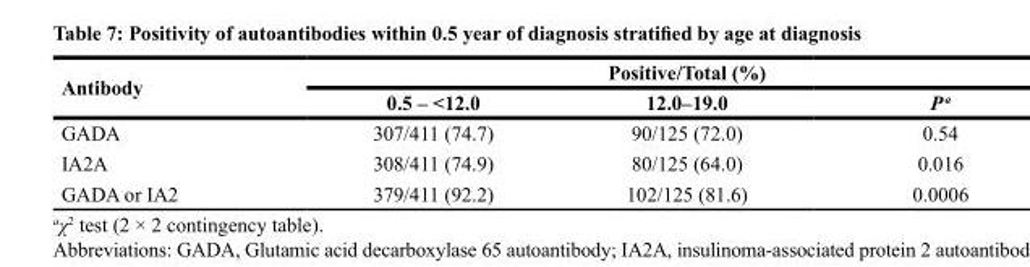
<table><thead><tr><td rowspan="2">Antibody</td><td colspan="3">Positive/Total (%)</td></tr><tr><td>0.5 – &lt;12.0</td><td>12.0–19.0</td><td>P <sup>a</sup></td></tr></thead><tbody><tr><td>GADA</td><td>307/411 (74.7)</td><td>90/125 (72.0)</td><td>0.54</td></tr><tr><td>IA2A</td><td>308/411 (74.9)</td><td>80/125 (64.0)</td><td>0.016</td></tr><tr><td>GADA or IA2</td><td>379/411 (92.2)</td><td>102/125 (81.6)</td><td>0.0006</td></tr></tbody></table>